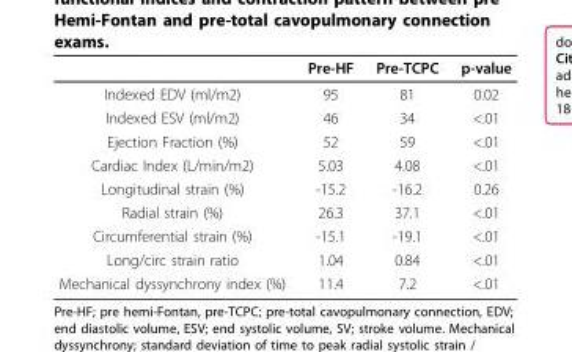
<table><thead><tr><td></td><td>Pre-HF</td><td>Pre-TCPC</td><td>p-value</td></tr></thead><tbody><tr><td>Indexed EDV (ml/m2)</td><td>95</td><td>81</td><td>0.02</td></tr><tr><td>Indexed ESV (ml/m2)</td><td>46</td><td>34</td><td>&lt;.01</td></tr><tr><td>Ejection Fraction (%)</td><td>52</td><td>59</td><td>&lt;.01</td></tr><tr><td>Cardiac Index (L/min/m2)</td><td>5.03</td><td>4.08</td><td>&lt;.01</td></tr><tr><td>Longitudinal strain (%)</td><td>-15.2</td><td>-16.2</td><td>0.26</td></tr><tr><td>Radial strain (%)</td><td>26.3</td><td>37.1</td><td>&lt;.01</td></tr><tr><td>Circumferential strain (%)</td><td>-15.1</td><td>-19.1</td><td>&lt;.01</td></tr><tr><td>Long/circ strain ratio</td><td>1.04</td><td>0.84</td><td>&lt;.01</td></tr><tr><td>Mechanical dyssynchrony index (%)</td><td>11.4</td><td>7.2</td><td>&lt;.01</td></tr></tbody></table>